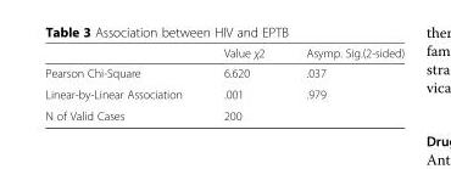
<table><thead><tr><td></td><td>Value χ2</td><td>Asymp. Sig.(2-sided)</td></tr></thead><tbody><tr><td>Pearson Chi-Square</td><td>6.620</td><td>.037</td></tr><tr><td>Linear-by-Linear Association</td><td>.001</td><td>.979</td></tr><tr><td>N of Valid Cases</td><td>200</td><td></td></tr></tbody></table>